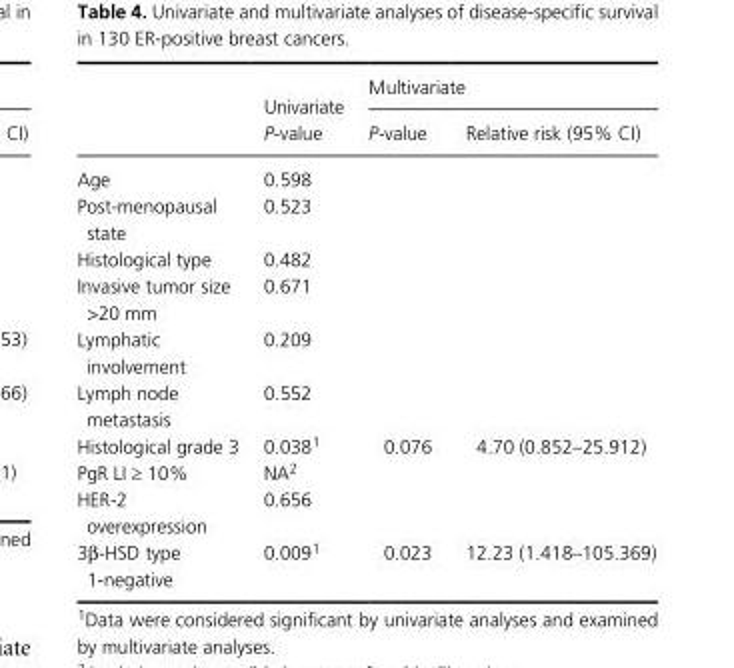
<table><thead><tr><td rowspan="2"></td><td rowspan="2">Univariate P- value</td><td colspan="2">Multivariate</td></tr><tr><td>P- value</td><td>Relative risk (95% CI)</td></tr></thead><tbody><tr><td>Age</td><td>0.598</td><td></td><td></td></tr><tr><td>Post- menopausal state</td><td>0.523</td><td></td><td></td></tr><tr><td>Histological type</td><td>0.482</td><td></td><td></td></tr><tr><td>Invasive tumor size &gt;20 mm</td><td>0.671</td><td></td><td></td></tr><tr><td>Lymphatic involvement</td><td>0.209</td><td></td><td></td></tr><tr><td>Lymph node metastasis</td><td>0.552</td><td></td><td></td></tr><tr><td>Histological grade 3</td><td>0.0381</td><td>0.076</td><td>4.70 (0.852–25.912)</td></tr><tr><td>PgR LI ≥ 10%</td><td>NA2</td><td></td><td></td></tr><tr><td>HER- 2 overexpression</td><td>0.656</td><td></td><td></td></tr><tr><td>3β- HSD type 1- negative</td><td>0.0091</td><td>0.023</td><td>12.23 (1.418–105.369)</td></tr></tbody></table>